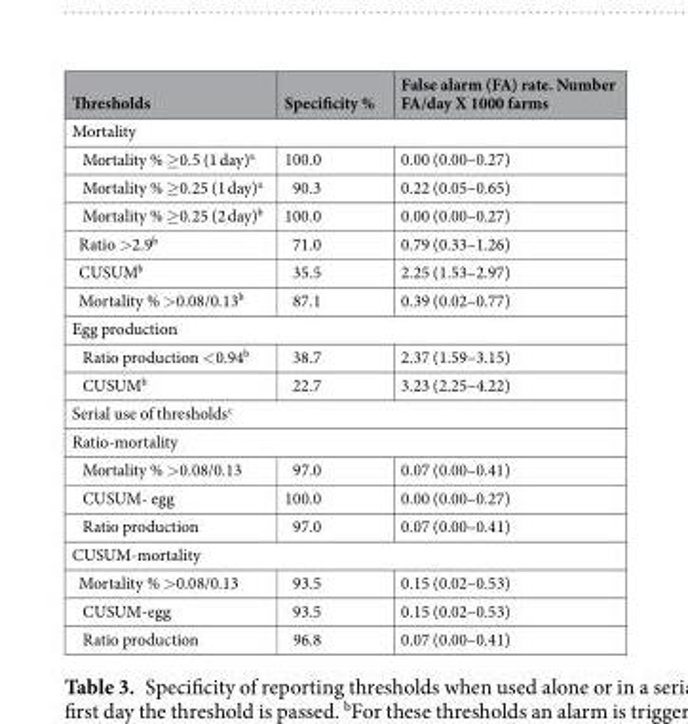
<table><thead><tr><td>Thresholds</td><td>Specificity %</td><td>False alarm (FA) rate. Number FA/day X 1000 farms</td></tr></thead><tbody><tr><td colspan="3">Mortality</td></tr><tr><td>Mortality % ≥0.5 (1 day)<sup>a</sup></td><td>100.0</td><td>0.00 (0.00–0.27)</td></tr><tr><td>Mortality % ≥0.25 (1 day)<sup>a</sup></td><td>90.3</td><td>0.22 (0.05–0.65)</td></tr><tr><td>Mortality % ≥0.25 (2 day)<sup>b</sup></td><td>100.0</td><td>0.00 (0.00–0.27)</td></tr><tr><td>Ratio &gt;2.9<sup>b</sup></td><td>71.0</td><td>0.79 (0.33–1.26)</td></tr><tr><td>CUSUM<sup>b</sup></td><td>35.5</td><td>2.25 (1.53–2.97)</td></tr><tr><td>Mortality % &gt;0.08/0.13<sup>b</sup></td><td>87.1</td><td>0.39 (0.02–0.77)</td></tr><tr><td colspan="3">Egg production</td></tr><tr><td>Ratio production &lt;0.94<sup>b</sup></td><td>38.7</td><td>2.37 (1.59–3.15)</td></tr><tr><td>CUSUM<sup>b</sup></td><td>22.7</td><td>3.23 (2.25–4.22)</td></tr><tr><td colspan="3">Serial use of thresholds<sup>c</sup></td></tr><tr><td colspan="3">Ratio-mortality</td></tr><tr><td>Mortality % &gt;0.08/0.13</td><td>97.0</td><td>0.07 (0.00–0.41)</td></tr><tr><td>CUSUM- egg</td><td>100.0</td><td>0.00 (0.00–0.27)</td></tr><tr><td>Ratio production</td><td>97.0</td><td>0.07 (0.00–0.41)</td></tr><tr><td colspan="3">CUSUM-mortality</td></tr><tr><td>Mortality % &gt;0.08/0.13</td><td>93.5</td><td>0.15 (0.02–0.53)</td></tr><tr><td>CUSUM-egg</td><td>93.5</td><td>0.15 (0.02–0.53)</td></tr><tr><td>Ratio production</td><td>96.8</td><td>0.07 (0.00–0.41)</td></tr></tbody></table>